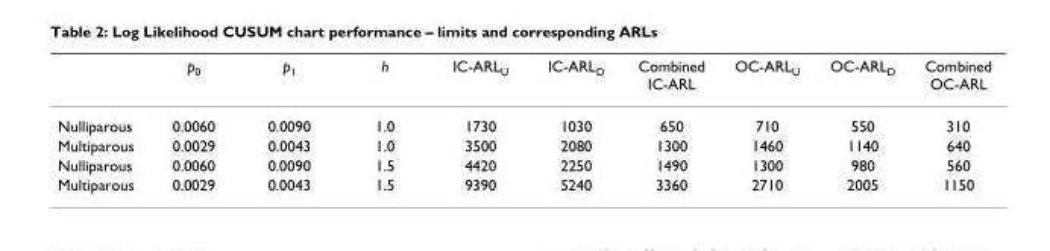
<table><thead><tr><td></td><td>p<sub>0</sub></td><td>p<sub>1</sub></td><td>h</td><td>IC-ARL<sub>U</sub></td><td>IC-ARL<sub>D</sub></td><td>Combined IC-ARL</td><td>OC-ARL<sub>U</sub></td><td>OC-ARL<sub>D</sub></td><td>Combined OC-ARL</td></tr></thead><tbody><tr><td>Nulliparous</td><td>0.0060</td><td>0.0090</td><td>1.0</td><td>1730</td><td>1030</td><td>650</td><td>710</td><td>550</td><td>310</td></tr><tr><td>Multiparous</td><td>0.0029</td><td>0.0043</td><td>1.0</td><td>3500</td><td>2080</td><td>1300</td><td>1460</td><td>1140</td><td>640</td></tr><tr><td>Nulliparous</td><td>0.0060</td><td>0.0090</td><td>1.5</td><td>4420</td><td>2250</td><td>1490</td><td>1300</td><td>980</td><td>560</td></tr><tr><td>Multiparous</td><td>0.0029</td><td>0.0043</td><td>1.5</td><td>9390</td><td>5240</td><td>3360</td><td>2710</td><td>2005</td><td>1150</td></tr></tbody></table>